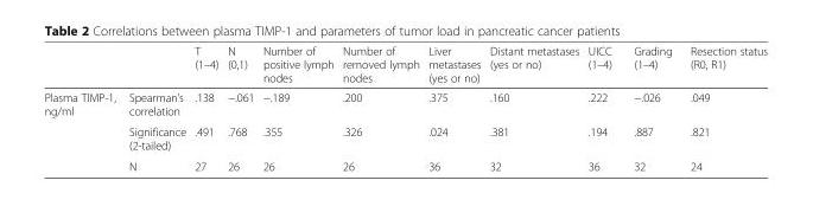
<table><thead><tr><td></td><td></td><td>T (1–4)</td><td>N (0,1)</td><td>Number of positive lymph nodes</td><td>Number of removed lymph nodes</td><td>Liver metastases (yes or no)</td><td>Distant metastases (yes or no)</td><td>UICC (1–4)</td><td>Grading (1–4)</td><td>Resection status (R0, R1)</td></tr></thead><tbody><tr><td rowspan="3">Plasma TIMP-1, ng/ml</td><td>Spearman’s correlation</td><td>.138</td><td>−.061</td><td>−.189</td><td>.200</td><td>.375</td><td>.160</td><td>.222</td><td>−.026</td><td>.049</td></tr><tr><td>Significance (2-tailed)</td><td>.491</td><td>.768</td><td>.355</td><td>.326</td><td>.024</td><td>.381</td><td>.194</td><td>.887</td><td>.821</td></tr><tr><td>N</td><td>27</td><td>26</td><td>26</td><td>26</td><td>36</td><td>32</td><td>36</td><td>32</td><td>24</td></tr></tbody></table>